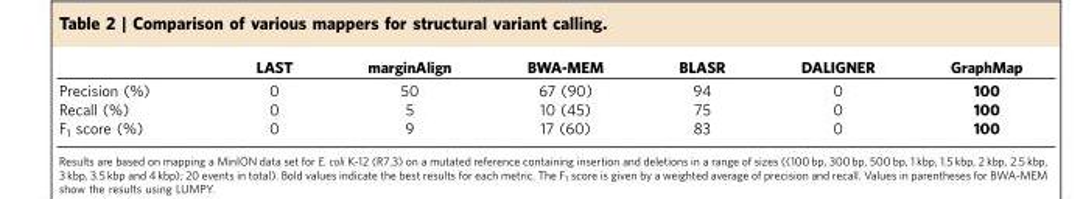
<table><thead><tr><td></td><td>LAST</td><td>marginAlign</td><td>BWA-MEM</td><td>BLASR</td><td>DALIGNER</td><td>GraphMap</td></tr></thead><tbody><tr><td>Precision (%)</td><td>0</td><td>50</td><td>67 (90)</td><td>94</td><td>0</td><td>100</td></tr><tr><td>Recall (%)</td><td>0</td><td>5</td><td>10 (45)</td><td>75</td><td>0</td><td>100</td></tr><tr><td>F<sub>1</sub> score (%)</td><td>0</td><td>9</td><td>17 (60)</td><td>83</td><td>0</td><td>100</td></tr></tbody></table>